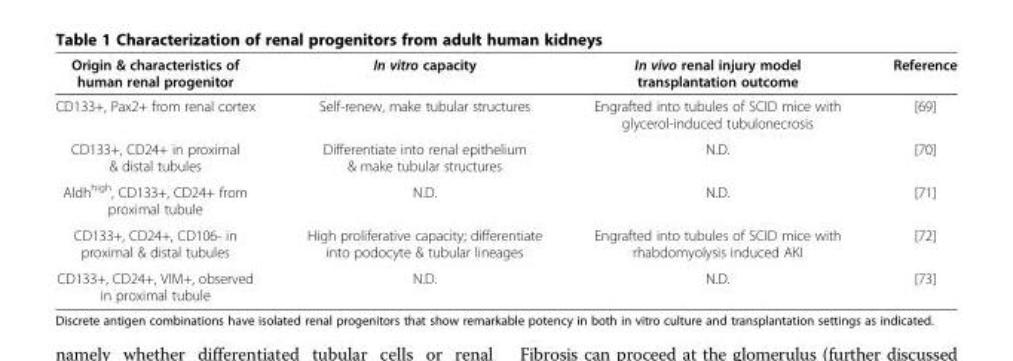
<table><thead><tr><td>Origin &amp; characteristics of human renal progenitor</td><td>In vitro capacity</td><td>In vivo renal injury model transplantation outcome</td><td>Reference</td></tr></thead><tbody><tr><td>CD133+, Pax2+ from renal cortex</td><td>Self-renew, make tubular structures</td><td>Engrafted into tubules of SCID mice with glycerol-induced tubulonecrosis</td><td>[69]</td></tr><tr><td>CD133+, CD24+ in proximal &amp; distal tubules</td><td>Differentiate into renal epithelium &amp; make tubular structures</td><td>N.D.</td><td>[70]</td></tr><tr><td>Aldh<sup>high</sup>, CD133+, CD24+ from proximal tubule</td><td>N.D.</td><td>N.D.</td><td>[71]</td></tr><tr><td>CD133+, CD24+, CD106- in proximal &amp; distal tubules</td><td>High proliferative capacity; differentiate into podocyte &amp; tubular lineages</td><td>Engrafted into tubules of SCID mice with rhabdomyolysis induced AKI</td><td>[72]</td></tr><tr><td>CD133+, CD24+, VIM+, observed in proximal tubule</td><td>N.D.</td><td>N.D.</td><td>[73]</td></tr></tbody></table>